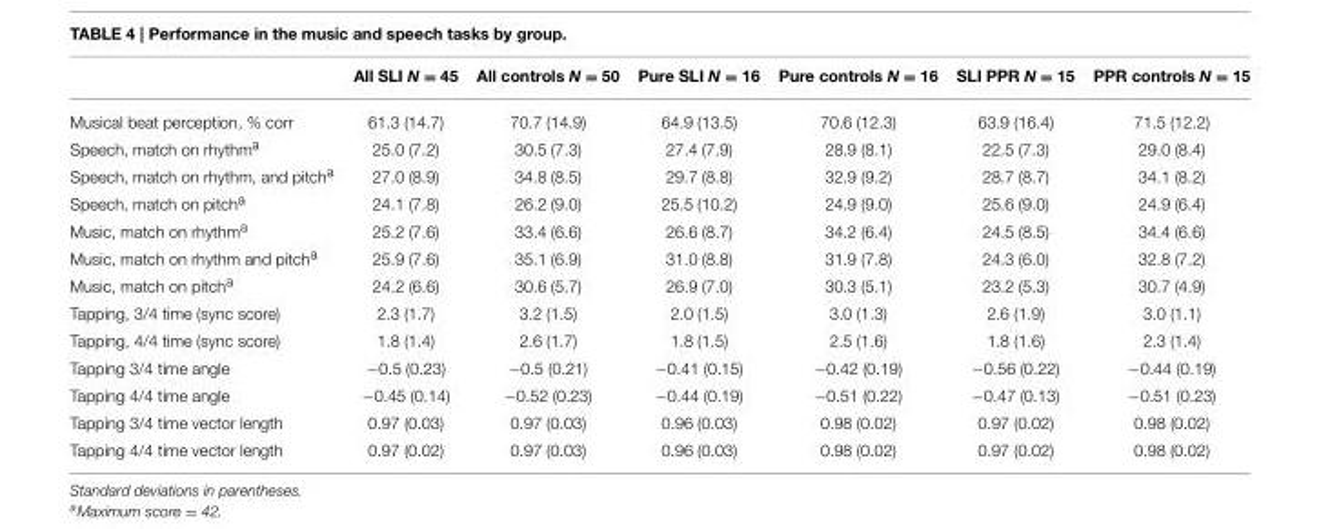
<table><thead><tr><td></td><td>All SLI N = 45</td><td>All controls N = 50</td><td>Pure SLI N = 16</td><td>Pure controls N = 16</td><td>SLI PPR N = 15</td><td>PPR controls N = 15</td></tr></thead><tbody><tr><td>Musical beat perception, % corr</td><td>61.3 (14.7)</td><td>70.7 (14.9)</td><td>64.9 (13.5)</td><td>70.6 (12.3)</td><td>63.9 (16.4)</td><td>71.5 (12.2)</td></tr><tr><td>Speech, match on rhythm<sup>a</sup></td><td>25.0 (7.2)</td><td>30.5 (7.3)</td><td>27.4 (7.9)</td><td>28.9 (8.1)</td><td>22.5 (7.3)</td><td>29.0 (8.4)</td></tr><tr><td>Speech, match on rhythm, and pitch<sup>a</sup></td><td>27.0 (8.9)</td><td>34.8 (8.5)</td><td>29.7 (8.8)</td><td>32.9 (9.2)</td><td>28.7 (8.7)</td><td>34.1 (8.2)</td></tr><tr><td>Speech, match on pitch<sup>a</sup></td><td>24.1 (7.8)</td><td>26.2 (9.0)</td><td>25.5 (10.2)</td><td>24.9 (9.0)</td><td>25.6 (9.0)</td><td>24.9 (6.4)</td></tr><tr><td>Music, match on rhythm<sup>a</sup></td><td>25.2 (7.6)</td><td>33.4 (6.6)</td><td>26.6 (8.7)</td><td>34.2 (6.4)</td><td>24.5 (8.5)</td><td>34.4 (6.6)</td></tr><tr><td>Music, match on rhythm and pitch<sup>a</sup></td><td>25.9 (7.6)</td><td>35.1 (6.9)</td><td>31.0 (8.8)</td><td>31.9 (7.8)</td><td>24.3 (6.0)</td><td>32.8 (7.2)</td></tr><tr><td>Music, match on pitch<sup>a</sup></td><td>24.2 (6.6)</td><td>30.6 (5.7)</td><td>26.9 (7.0)</td><td>30.3 (5.1)</td><td>23.2 (5.3)</td><td>30.7 (4.9)</td></tr><tr><td>Tapping, 3/4 time (sync score)</td><td>2.3 (1.7)</td><td>3.2 (1.5)</td><td>2.0 (1.5)</td><td>3.0 (1.3)</td><td>2.6 (1.9)</td><td>3.0 (1.1)</td></tr><tr><td>Tapping, 4/4 time (sync score)</td><td>1.8 (1.4)</td><td>2.6 (1.7)</td><td>1.8 (1.5)</td><td>2.5 (1.6)</td><td>1.8 (1.6)</td><td>2.3 (1.4)</td></tr><tr><td>Tapping 3/4 time angle</td><td>−0.5 (0.23)</td><td>−0.5 (0.21)</td><td>−0.41 (0.15)</td><td>−0.42 (0.19)</td><td>−0.56 (0.22)</td><td>−0.44 (0.19)</td></tr><tr><td>Tapping 4/4 time angle</td><td>−0.45 (0.14)</td><td>−0.52 (0.23)</td><td>−0.44 (0.19)</td><td>−0.51 (0.22)</td><td>−0.47 (0.13)</td><td>−0.51 (0.23)</td></tr><tr><td>Tapping 3/4 time vector length</td><td>0.97 (0.03)</td><td>0.97 (0.03)</td><td>0.96 (0.03)</td><td>0.98 (0.02)</td><td>0.97 (0.02)</td><td>0.98 (0.02)</td></tr><tr><td>Tapping 4/4 time vector length</td><td>0.97 (0.02)</td><td>0.97 (0.03)</td><td>0.96 (0.03)</td><td>0.98 (0.02)</td><td>0.97 (0.02)</td><td>0.98 (0.02)</td></tr></tbody></table>